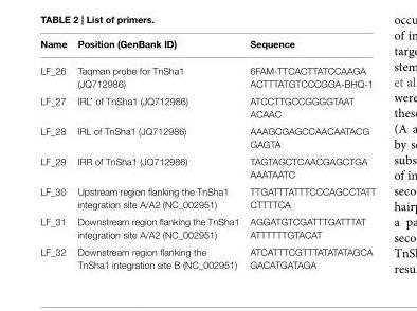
<table><thead><tr><td>Name</td><td>Position (GenBank ID)</td><td>Sequence</td></tr></thead><tbody><tr><td>LF_26</td><td>Taqman probe for TnSha1 (JQ712986)</td><td>6FAM-TTCACTTATCCAAGA ACTTTATGTCCCGGA-BHQ-1</td></tr><tr><td>LF_27</td><td>IRL’ of TnSha1 (JQ712986)</td><td>ATCCTTGCCGGGGTAAT ACAAC</td></tr><tr><td>LF_28</td><td>IRL of TnSha1 (JQ712986)</td><td>AAAGCGAGCCAACAATACG GAGTA</td></tr><tr><td>LF_29</td><td>IRR of TnSha1 (JQ712986)</td><td>TAGTAGCTCAACGAGCTGA AAATAATC</td></tr><tr><td>LF_30</td><td>Upstream region flanking the TnSha1 integration site A/A2 (NC_002951)</td><td>TTGATTTATTTCCCAGCCTATT CTTTTCA</td></tr><tr><td>LF_31</td><td>Downstream region flanking the TnSha1 integration site A/A2 (NC_002951)</td><td>AGGATGTCGATTTGATTTAT ATTTTTTGTACAT</td></tr><tr><td>LF_32</td><td>Downstream region flanking the TnSha1 integration site B (NC_002951)</td><td>ATCATTTCGTTTATATATAGCA GACATGATAGA</td></tr></tbody></table>